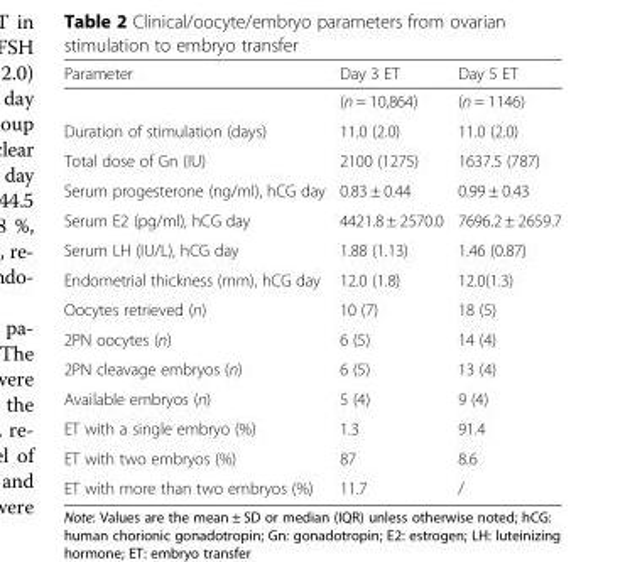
<table><thead><tr><td>Parameter</td><td>Day 3 ET</td><td>Day 5 ET</td></tr></thead><tbody><tr><td></td><td>(n = 10,864)</td><td>(n = 1146)</td></tr><tr><td>Duration of stimulation (days)</td><td>11.0 (2.0)</td><td>11.0 (2.0)</td></tr><tr><td>Total dose of Gn (IU)</td><td>2100 (1275)</td><td>1637.5 (787)</td></tr><tr><td>Serum progesterone (ng/ml), hCG day</td><td>0.83 ± 0.44</td><td>0.99 ± 0.43</td></tr><tr><td>Serum E2 (pg/ml), hCG day</td><td>4421.8 ± 2570.0</td><td>7696.2 ± 2659.7</td></tr><tr><td>Serum LH (IU/L), hCG day</td><td>1.88 (1.13)</td><td>1.46 (0.87)</td></tr><tr><td>Endometrial thickness (mm), hCG day</td><td>12.0 (1.8)</td><td>12.0(1.3)</td></tr><tr><td>Oocytes retrieved (n)</td><td>10 (7)</td><td>18 (5)</td></tr><tr><td>2PN oocytes (n)</td><td>6 (5)</td><td>14 (4)</td></tr><tr><td>2PN cleavage embryos (n)</td><td>6 (5)</td><td>13 (4)</td></tr><tr><td>Available embryos (n)</td><td>5 (4)</td><td>9 (4)</td></tr><tr><td>ET with a single embryo (%)</td><td>1.3</td><td>91.4</td></tr><tr><td>ET with two embryos (%)</td><td>87</td><td>8.6</td></tr><tr><td>ET with more than two embryos (%)</td><td>11.7</td><td>/</td></tr></tbody></table>